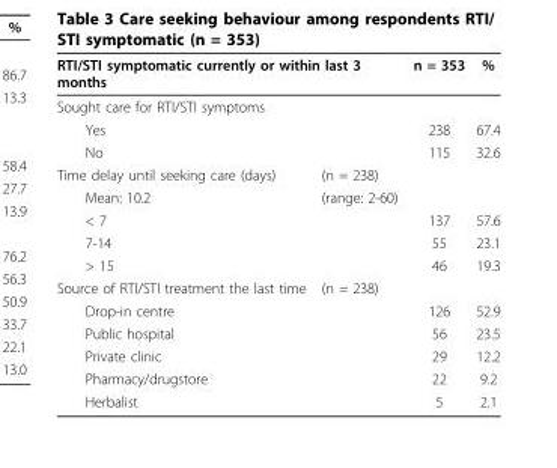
<table><thead><tr><td colspan="2">RTI/STI symptomatic currently or within last 3 months</td><td rowspan="2">n = 353</td><td rowspan="2">%</td></tr><tr><td>Sought care for RTI/STI symptoms</td><td></td></tr></thead><tbody><tr><td>Yes</td><td></td><td>238</td><td>67.4</td></tr><tr><td>No</td><td></td><td>115</td><td>32.6</td></tr><tr><td>Time delay until seeking care (days)</td><td>(n = 238)</td><td></td><td></td></tr><tr><td>Mean: 10.2</td><td>(range: 2-60)</td><td></td><td></td></tr><tr><td>&lt; 7</td><td></td><td>137</td><td>57.6</td></tr><tr><td>7-14</td><td></td><td>55</td><td>23.1</td></tr><tr><td>&gt; 15</td><td></td><td>46</td><td>19.3</td></tr><tr><td>Source of RTI/STI treatment the last time</td><td>(n = 238)</td><td></td><td></td></tr><tr><td>Drop-in centre</td><td></td><td>126</td><td>52.9</td></tr><tr><td>Public hospital</td><td></td><td>56</td><td>23.5</td></tr><tr><td>Private clinic</td><td></td><td>29</td><td>12.2</td></tr><tr><td>Pharmacy/drugstore</td><td></td><td>22</td><td>9.2</td></tr><tr><td>Herbalist</td><td></td><td>5</td><td>2.1</td></tr></tbody></table>